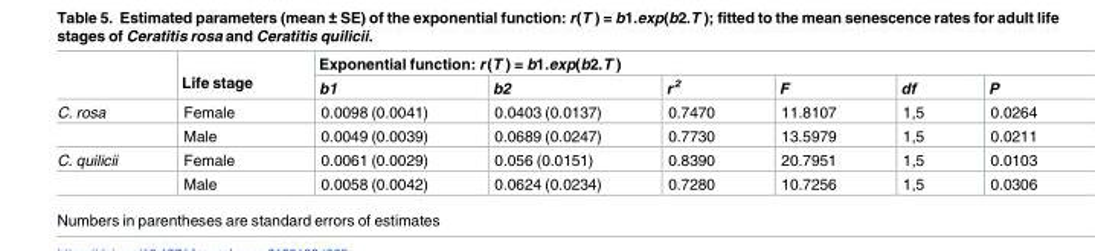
<table><thead><tr><td rowspan="2"></td><td rowspan="2">Life stage</td><td colspan="6">Exponential function: r(T ) = b1.exp(b2.T )</td></tr><tr><td>b1</td><td>b2</td><td>r <sup>2</sup></td><td>F</td><td>df</td><td>P</td></tr></thead><tbody><tr><td rowspan="2">C. rosa</td><td>Female</td><td>0.0098 (0.0041)</td><td>0.0403 (0.0137)</td><td>0.7470</td><td>11.8107</td><td>1,5</td><td>0.0264</td></tr><tr><td>Male</td><td>0.0049 (0.0039)</td><td>0.0689 (0.0247)</td><td>0.7730</td><td>13.5979</td><td>1,5</td><td>0.0211</td></tr><tr><td rowspan="2">C. quilicii</td><td>Female</td><td>0.0061 (0.0029)</td><td>0.056 (0.0151)</td><td>0.8390</td><td>20.7951</td><td>1,5</td><td>0.0103</td></tr><tr><td>Male</td><td>0.0058 (0.0042)</td><td>0.0624 (0.0234)</td><td>0.7280</td><td>10.7256</td><td>1,5</td><td>0.0306</td></tr></tbody></table>